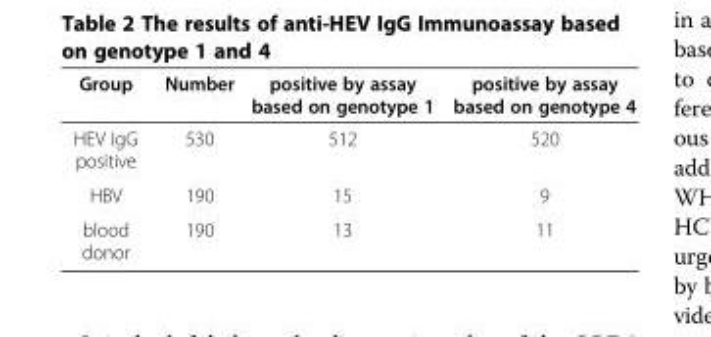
<table><thead><tr><td>Group</td><td>Number</td><td>positive by assay based on genotype 1</td><td>positive by assay based on genotype 4</td></tr></thead><tbody><tr><td>HEV IgG positive</td><td>530</td><td>512</td><td>520</td></tr><tr><td>HBV</td><td>190</td><td>15</td><td>9</td></tr><tr><td>blood donor</td><td>190</td><td>13</td><td>11</td></tr></tbody></table>